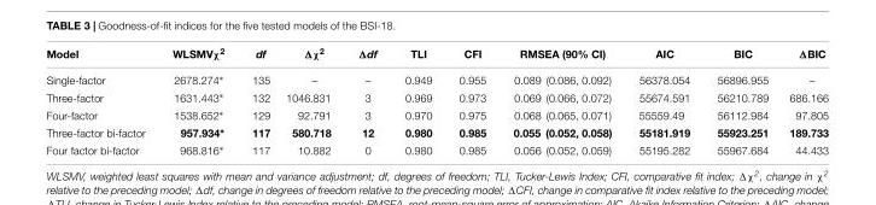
<table><thead><tr><td>Model</td><td>WLSMVχ<sup>2</sup></td><td>df</td><td>Δχ<sup>2</sup></td><td>Δdf</td><td>TLI</td><td>CFI</td><td>RMSEA (90% CI)</td><td>AIC</td><td>BIC</td><td>ΔBIC</td></tr></thead><tbody><tr><td>Single-factor</td><td>2678.274∗</td><td>135</td><td>–</td><td>–</td><td>0.949</td><td>0.955</td><td>0.089 (0.086, 0.092)</td><td>56378.054</td><td>56896.955</td><td>–</td></tr><tr><td>Three-factor</td><td>1631.443∗</td><td>132</td><td>1046.831</td><td>3</td><td>0.969</td><td>0.973</td><td>0.069 (0.066, 0.072)</td><td>55674.591</td><td>56210.789</td><td>686.166</td></tr><tr><td>Four-factor</td><td>1538.652∗</td><td>129</td><td>92.791</td><td>3</td><td>0.970</td><td>0.975</td><td>0.068 (0.065, 0.071)</td><td>55559.49</td><td>56112.984</td><td>97.805</td></tr><tr><td>Three-factor bi-factor</td><td>957.934∗</td><td>117</td><td>580.718</td><td>12</td><td>0.980</td><td>0.985</td><td>0.055 (0.052, 0.058)</td><td>55181.919</td><td>55923.251</td><td>189.733</td></tr><tr><td>Four factor bi-factor</td><td>968.816∗</td><td>117</td><td>10.882</td><td>0</td><td>0.980</td><td>0.985</td><td>0.056 (0.052, 0.059)</td><td>55195.282</td><td>55967.684</td><td>44.433</td></tr></tbody></table>